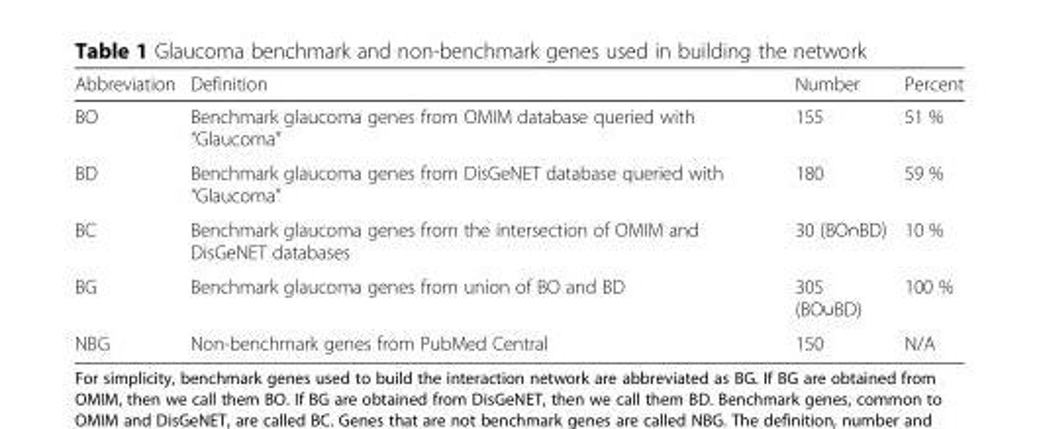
<table><thead><tr><td>Abbreviation</td><td>Definition</td><td>Number</td><td>Percent</td></tr></thead><tbody><tr><td>BO</td><td>Benchmark glaucoma genes from OMIM database queried with “Glaucoma”</td><td>155</td><td>51 %</td></tr><tr><td>BD</td><td>Benchmark glaucoma genes from DisGeNET database queried with “Glaucoma”</td><td>180</td><td>59 %</td></tr><tr><td>BC</td><td>Benchmark glaucoma genes from the intersection of OMIM and DisGeNET databases</td><td>30 (BO∩BD)</td><td>10 %</td></tr><tr><td>BG</td><td>Benchmark glaucoma genes from union of BO and BD</td><td>305 (BO⋃BD)</td><td>100 %</td></tr><tr><td>NBG</td><td>Non-benchmark genes from PubMed Central</td><td>150</td><td>N/A</td></tr></tbody></table>